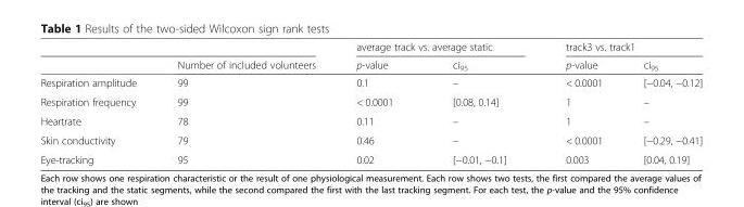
<table><thead><tr><td rowspan="2"></td><td rowspan="2">Number of included volunteers</td><td colspan="2">average track vs. average static</td><td colspan="2">track3 vs. track1</td></tr><tr><td>p-value</td><td>ci<sub>95</sub></td><td>p-value</td><td>ci<sub>95</sub></td></tr></thead><tbody><tr><td>Respiration amplitude</td><td>99</td><td>0.1</td><td>–</td><td>&lt; 0.0001</td><td>[−0.04, −0.12]</td></tr><tr><td>Respiration frequency</td><td>99</td><td>&lt; 0.0001</td><td>[0.08, 0.14]</td><td>1</td><td>–</td></tr><tr><td>Heartrate</td><td>78</td><td>0.11</td><td>–</td><td>1</td><td>–</td></tr><tr><td>Skin conductivity</td><td>79</td><td>0.46</td><td>–</td><td>&lt; 0.0001</td><td>[−0.29, −0.41]</td></tr><tr><td>Eye-tracking</td><td>95</td><td>0.02</td><td>[−0.01, −0.1]</td><td>0.003</td><td>[0.04, 0.19]</td></tr></tbody></table>